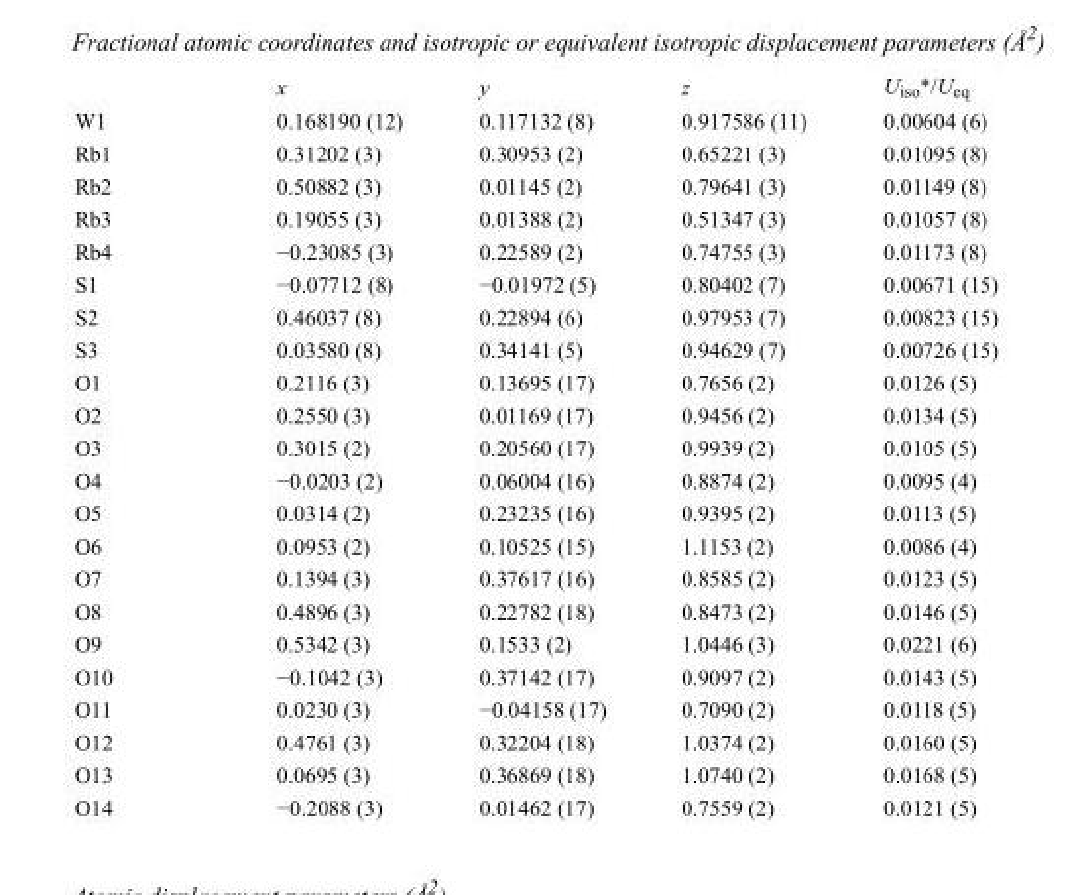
<table><thead><tr><td></td><td>x</td><td>y</td><td>z</td><td>U<sub>iso</sub>*/U<sub>eq</sub></td></tr></thead><tbody><tr><td>W1</td><td>0.168190 (12)</td><td>0.117132 (8)</td><td>0.917586 (11)</td><td>0.00604 (6)</td></tr><tr><td>Rb1</td><td>0.31202 (3)</td><td>0.30953 (2)</td><td>0.65221 (3)</td><td>0.01095 (8)</td></tr><tr><td>Rb2</td><td>0.50882 (3)</td><td>0.01145 (2)</td><td>0.79641 (3)</td><td>0.01149 (8)</td></tr><tr><td>Rb3</td><td>0.19055 (3)</td><td>0.01388 (2)</td><td>0.51347 (3)</td><td>0.01057 (8)</td></tr><tr><td>Rb4</td><td>−0.23085 (3)</td><td>0.22589 (2)</td><td>0.74755 (3)</td><td>0.01173 (8)</td></tr><tr><td>S1</td><td>−0.07712 (8)</td><td>−0.01972 (5)</td><td>0.80402 (7)</td><td>0.00671 (15)</td></tr><tr><td>S2</td><td>0.46037 (8)</td><td>0.22894 (6)</td><td>0.97953 (7)</td><td>0.00823 (15)</td></tr><tr><td>S3</td><td>0.03580 (8)</td><td>0.34141 (5)</td><td>0.94629 (7)</td><td>0.00726 (15)</td></tr><tr><td>O1</td><td>0.2116 (3)</td><td>0.13695 (17)</td><td>0.7656 (2)</td><td>0.0126 (5)</td></tr><tr><td>O2</td><td>0.2550 (3)</td><td>0.01169 (17)</td><td>0.9456 (2)</td><td>0.0134 (5)</td></tr><tr><td>O3</td><td>0.3015 (2)</td><td>0.20560 (17)</td><td>0.9939 (2)</td><td>0.0105 (5)</td></tr><tr><td>O4</td><td>−0.0203 (2)</td><td>0.06004 (16)</td><td>0.8874 (2)</td><td>0.0095 (4)</td></tr><tr><td>O5</td><td>0.0314 (2)</td><td>0.23235 (16)</td><td>0.9395 (2)</td><td>0.0113 (5)</td></tr><tr><td>O6</td><td>0.0953 (2)</td><td>0.10525 (15)</td><td>1.1153 (2)</td><td>0.0086 (4)</td></tr><tr><td>O7</td><td>0.1394 (3)</td><td>0.37617 (16)</td><td>0.8585 (2)</td><td>0.0123 (5)</td></tr><tr><td>O8</td><td>0.4896 (3)</td><td>0.22782 (18)</td><td>0.8473 (2)</td><td>0.0146 (5)</td></tr><tr><td>O9</td><td>0.5342 (3)</td><td>0.1533 (2)</td><td>1.0446 (3)</td><td>0.0221 (6)</td></tr><tr><td>O10</td><td>−0.1042 (3)</td><td>0.37142 (17)</td><td>0.9097 (2)</td><td>0.0143 (5)</td></tr><tr><td>O11</td><td>0.0230 (3)</td><td>−0.04158 (17)</td><td>0.7090 (2)</td><td>0.0118 (5)</td></tr><tr><td>O12</td><td>0.4761 (3)</td><td>0.32204 (18)</td><td>1.0374 (2)</td><td>0.0160 (5)</td></tr><tr><td>O13</td><td>0.0695 (3)</td><td>0.36869 (18)</td><td>1.0740 (2)</td><td>0.0168 (5)</td></tr><tr><td>O14</td><td>−0.2088 (3)</td><td>0.01462 (17)</td><td>0.7559 (2)</td><td>0.0121 (5)</td></tr></tbody></table>